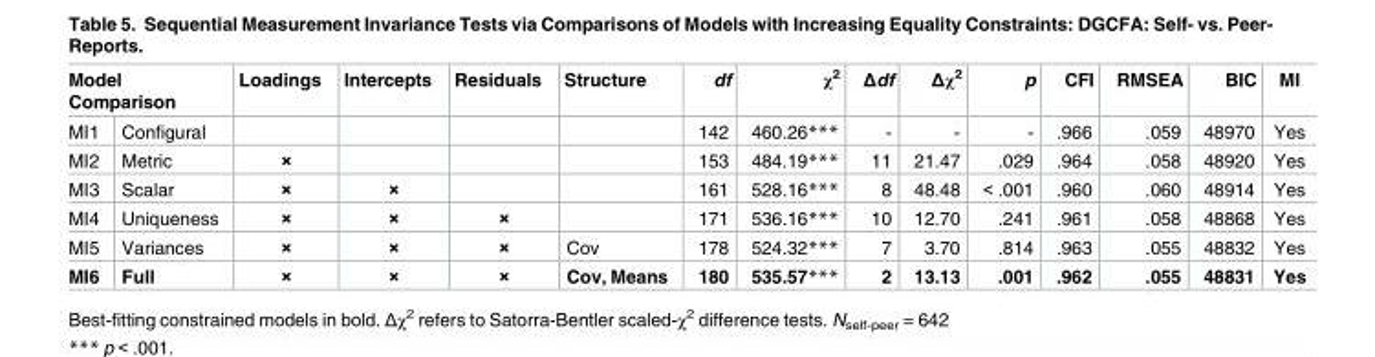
<table><thead><tr><td colspan="2">Model Comparison</td><td rowspan="2">Loadings</td><td rowspan="2">Intercepts</td><td rowspan="2">Residuals</td><td rowspan="2">Structure</td><td rowspan="2">df 142</td><td rowspan="2">χ<sup>2</sup> 460.26***</td><td rowspan="2">Δdf -</td><td rowspan="2">Δχ<sup>2</sup> -</td><td rowspan="2">p -</td><td rowspan="2">CFI .966</td><td rowspan="2">RMSEA .059</td><td rowspan="2">BIC 48970</td><td rowspan="2">MI Yes</td></tr><tr><td>MI1</td><td>Configural</td></tr></thead><tbody><tr><td>MI2</td><td>Metric</td><td>×</td><td></td><td></td><td></td><td>153</td><td>484.19***</td><td>11</td><td>21.47</td><td>.029</td><td>.964</td><td>.058</td><td>48920</td><td>Yes</td></tr><tr><td>MI3</td><td>Scalar</td><td>×</td><td>×</td><td></td><td></td><td>161</td><td>528.16***</td><td>8</td><td>48.48</td><td>&lt; .001</td><td>.960</td><td>.060</td><td>48914</td><td>Yes</td></tr><tr><td>MI4</td><td>Uniqueness</td><td>×</td><td>×</td><td>×</td><td></td><td>171</td><td>536.16***</td><td>10</td><td>12.70</td><td>.241</td><td>.961</td><td>.058</td><td>48868</td><td>Yes</td></tr><tr><td>MI5</td><td>Variances</td><td>×</td><td>×</td><td>×</td><td>Cov</td><td>178</td><td>524.32***</td><td>7</td><td>3.70</td><td>.814</td><td>.963</td><td>.055</td><td>48832</td><td>Yes</td></tr><tr><td>MI6</td><td>Full</td><td>×</td><td>×</td><td>×</td><td>Cov, Means</td><td>180</td><td>535.57***</td><td>2</td><td>13.13</td><td>.001</td><td>.962</td><td>.055</td><td>48831</td><td>Yes</td></tr></tbody></table>